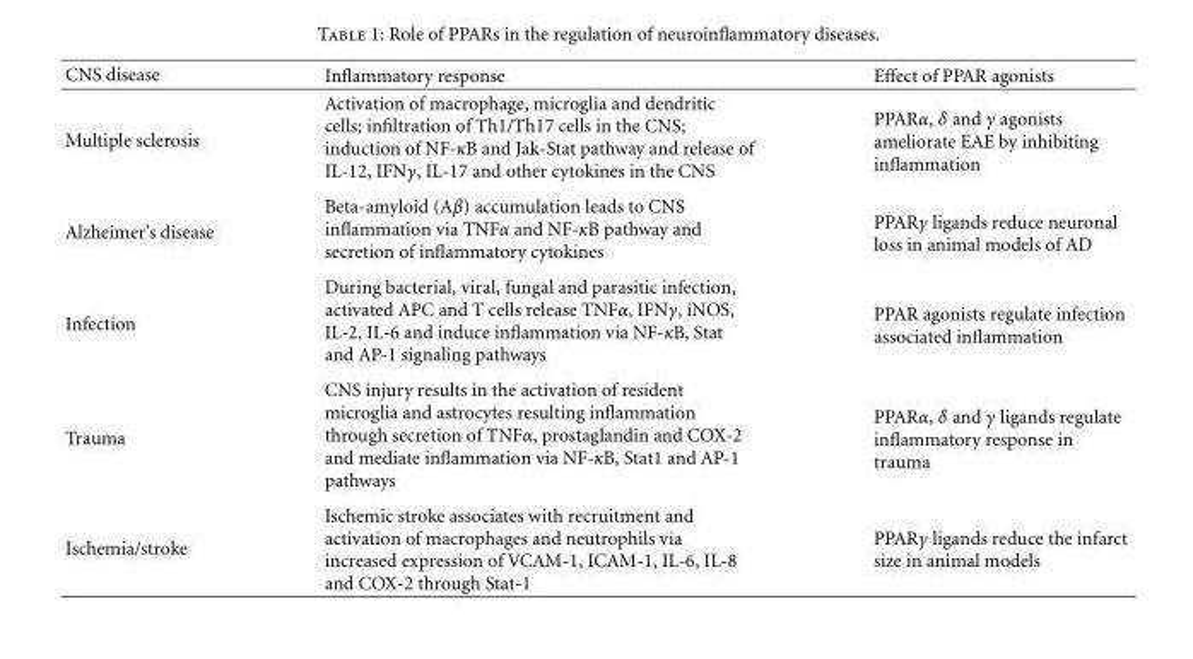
<table><thead><tr><td>CNS disease</td><td>Inflammatory response</td><td>Effect of PPAR agonists</td></tr></thead><tbody><tr><td>Multiple sclerosis</td><td>Activation of macrophage, microglia and dendritic cells; infiltration of Th1/Th17 cells in the CNS; induction of NF-κB and Jak-Stat pathway and release of IL-12, IFNγ, IL-17 and other cytokines in the CNS</td><td>PPARα, δ and γ agonists ameliorate EAE by inhibiting inflammation</td></tr><tr><td>Alzheimer’s disease</td><td>Beta-amyloid (Aβ) accumulation leads to CNS inflammation via TNFα and NF-κB pathway and secretion of inflammatory cytokines</td><td>PPARγ ligands reduce neuronal loss in animal models of AD</td></tr><tr><td>Infection</td><td>During bacterial, viral, fungal and parasitic infection, activated APC and T cells release TNFα, IFNγ, iNOS, IL-2, IL-6 and induce inflammation via NF-κB, Stat and AP-1 signaling pathways</td><td>PPAR agonists regulate infection associated inflammation</td></tr><tr><td>Trauma</td><td>CNS injury results in the activation of resident microglia and astrocytes resulting inflammation through secretion of TNFα, prostaglandin and COX-2 and mediate inflammation via NF-κB, Stat1 and AP-1 pathways</td><td>PPARα, δ and γ ligands regulate inflammatory response in trauma</td></tr><tr><td>Ischemia/stroke</td><td>Ischemic stroke associates with recruitment and activation of macrophages and neutrophils via increased expression of VCAM-1, ICAM-1, IL-6, IL-8 and COX-2 through Stat-1</td><td>PPARγ ligands reduce the infarct size in animal models</td></tr></tbody></table>